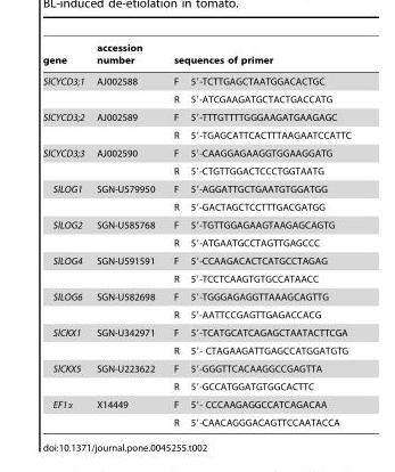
<table><thead><tr><td rowspan="2">gene SlCYCD3;1</td><td rowspan="2">accession number AJ002588</td><td colspan="2">sequences of primer</td></tr><tr><td>F</td><td>5′-TCTTGAGCTAATGGACACTGC</td></tr></thead><tbody><tr><td></td><td></td><td>R</td><td>5′-ATCGAAGATGCTACTGACCATG</td></tr><tr><td rowspan="2">SlCYCD3;2</td><td>AJ002589</td><td>F</td><td>5′-TTTGTTTTGGGAAGATGAAGAGC</td></tr><tr><td></td><td>R</td><td>5′-TGAGCATTCACTTTAAGAATCCATTC</td></tr><tr><td rowspan="2">SlCYCD3;3</td><td>AJ002590</td><td>F</td><td>5′-CAAGGAGAAGGTGGAAGGATG</td></tr><tr><td></td><td>R</td><td>5′-CTGTTGGACTCCCTGGTAATG</td></tr><tr><td rowspan="2">SlLOG1</td><td>SGN-U579950</td><td>F</td><td>5′-AGGATTGCTGAATGTGGATGG</td></tr><tr><td></td><td>R</td><td>5′-GACTAGCTCCTTTGACGATGG</td></tr><tr><td rowspan="2">SlLOG2</td><td>SGN-U585768</td><td>F</td><td>5′-TGTTGGAGAAGTAAGAGCAGTG</td></tr><tr><td></td><td>R</td><td>5′-ATGAATGCCTAGTTGAGCCC</td></tr><tr><td rowspan="2">SlLOG4</td><td>SGN-U591591</td><td>F</td><td>5′-CCAAGACACTCATGCCTAGAG</td></tr><tr><td></td><td>R</td><td>5′-TCCTCAAGTGTGCCATAACC</td></tr><tr><td rowspan="2">SlLOG6</td><td>SGN-U582698</td><td>F</td><td>5′-TGGGAGAGGTTAAAGCAGTTG</td></tr><tr><td></td><td>R</td><td>5′-AATTCCGAGTTGAGACCACG</td></tr><tr><td rowspan="2">SlCKX1</td><td>SGN-U342971</td><td>F</td><td>5′-TCATGCATCAGAGCTAATACTTCGA</td></tr><tr><td></td><td>R</td><td>5′- CTAGAAGATTGAGCCATGGATGTG</td></tr><tr><td rowspan="2">SlCKX5</td><td>SGN-U223622</td><td>F</td><td>5′-GGGTTCACAAGGCCGAGTTA</td></tr><tr><td></td><td>R</td><td>5′-GCCATGGATGTGGCACTTC</td></tr><tr><td rowspan="2">EF1α</td><td>X14449</td><td>F</td><td>5′- CCCAAGAGGCCATCAGACAA</td></tr><tr><td></td><td>R</td><td>5′-CAACAGGGACAGTTCCAATACCA</td></tr></tbody></table>